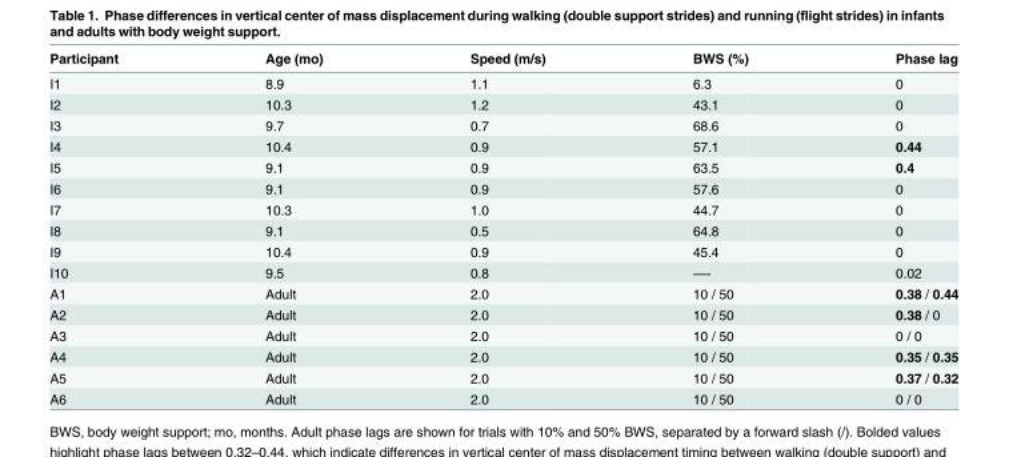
<table><thead><tr><td>Participant</td><td>Age (mo)</td><td>Speed (m/s)</td><td>BWS (%)</td><td>Phase lag</td></tr></thead><tbody><tr><td>I1</td><td>8.9</td><td>1.1</td><td>6.3</td><td>0</td></tr><tr><td>I2</td><td>10.3</td><td>1.2</td><td>43.1</td><td>0</td></tr><tr><td>I3</td><td>9.7</td><td>0.7</td><td>68.6</td><td>0</td></tr><tr><td>I4</td><td>10.4</td><td>0.9</td><td>57.1</td><td>0.44</td></tr><tr><td>I5</td><td>9.1</td><td>0.9</td><td>63.5</td><td>0.4</td></tr><tr><td>I6</td><td>9.1</td><td>0.9</td><td>57.6</td><td>0</td></tr><tr><td>I7</td><td>10.3</td><td>1.0</td><td>44.7</td><td>0</td></tr><tr><td>I8</td><td>9.1</td><td>0.5</td><td>64.8</td><td>0</td></tr><tr><td>I9</td><td>10.4</td><td>0.9</td><td>45.4</td><td>0</td></tr><tr><td>I10</td><td>9.5</td><td>0.8</td><td>—-</td><td>0.02</td></tr><tr><td>A1</td><td>Adult</td><td>2.0</td><td>10 / 50</td><td>0.38 / 0.44</td></tr><tr><td>A2</td><td>Adult</td><td>2.0</td><td>10 / 50</td><td>0.38 / 0</td></tr><tr><td>A3</td><td>Adult</td><td>2.0</td><td>10 / 50</td><td>0 / 0</td></tr><tr><td>A4</td><td>Adult</td><td>2.0</td><td>10 / 50</td><td>0.35 / 0.35</td></tr><tr><td>A5</td><td>Adult</td><td>2.0</td><td>10 / 50</td><td>0.37 / 0.32</td></tr><tr><td>A6</td><td>Adult</td><td>2.0</td><td>10 / 50</td><td>0 / 0</td></tr></tbody></table>